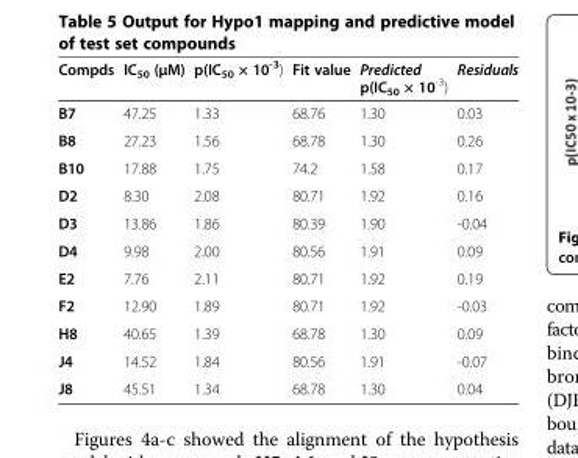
<table><thead><tr><td>Compds</td><td>IC<sub>50</sub> (μM)</td><td>p(IC<sub>50</sub> × 10<sup>-3</sup>)</td><td>Fit value</td><td>Predicted p(IC<sub>50</sub> × 10<sup>-3</sup>)</td><td>Residuals</td></tr></thead><tbody><tr><td>B7</td><td>47.25</td><td>1.33</td><td>68.76</td><td>1.30</td><td>0.03</td></tr><tr><td>B8</td><td>27.23</td><td>1.56</td><td>68.78</td><td>1.30</td><td>0.26</td></tr><tr><td>B10</td><td>17.88</td><td>1.75</td><td>74.2</td><td>1.58</td><td>0.17</td></tr><tr><td>D2</td><td>8.30</td><td>2.08</td><td>80.71</td><td>1.92</td><td>0.16</td></tr><tr><td>D3</td><td>13.86</td><td>1.86</td><td>80.39</td><td>1.90</td><td>-0.04</td></tr><tr><td>D4</td><td>9.98</td><td>2.00</td><td>80.56</td><td>1.91</td><td>0.09</td></tr><tr><td>E2</td><td>7.76</td><td>2.11</td><td>80.71</td><td>1.92</td><td>0.19</td></tr><tr><td>F2</td><td>12.90</td><td>1.89</td><td>80.71</td><td>1.92</td><td>-0.03</td></tr><tr><td>H8</td><td>40.65</td><td>1.39</td><td>68.78</td><td>1.30</td><td>0.09</td></tr><tr><td>J4</td><td>14.52</td><td>1.84</td><td>80.56</td><td>1.91</td><td>-0.07</td></tr><tr><td>J8</td><td>45.51</td><td>1.34</td><td>68.78</td><td>1.30</td><td>0.04</td></tr></tbody></table>